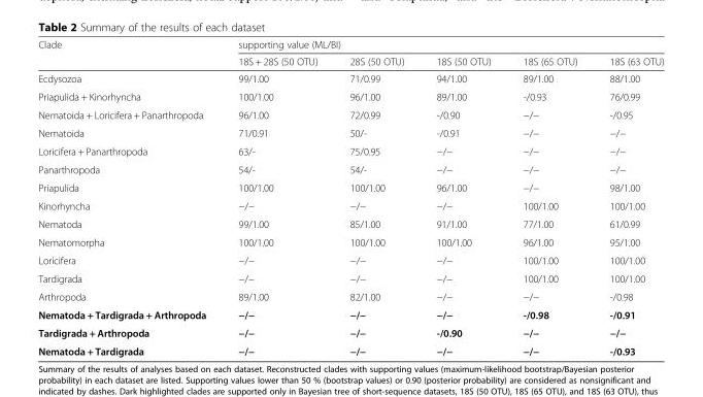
<table><thead><tr><td rowspan="2">Clade</td><td colspan="5">supporting value (ML/BI)</td></tr><tr><td>18S + 28S (50 OTU)</td><td>28S (50 OTU)</td><td>18S (50 OTU)</td><td>18S (65 OTU)</td><td>18S (63 OTU)</td></tr></thead><tbody><tr><td>Ecdysozoa</td><td>99/1.00</td><td>71/0.99</td><td>94/1.00</td><td>89/1.00</td><td>88/1.00</td></tr><tr><td>Priapulida + Kinorhyncha</td><td>100/1.00</td><td>96/1.00</td><td>89/1.00</td><td>-/0.93</td><td>76/0.99</td></tr><tr><td>Nematoida + Loricifera + Panarthropoda</td><td>96/1.00</td><td>72/0.99</td><td>-/0.90</td><td>−/−</td><td>-/0.95</td></tr><tr><td>Nematoida</td><td>71/0.91</td><td>50/-</td><td>-/0.91</td><td>−/−</td><td>−/−</td></tr><tr><td>Loricifera + Panarthropoda</td><td>63/-</td><td>75/0.95</td><td>−/−</td><td>−/−</td><td>−/−</td></tr><tr><td>Panarthropoda</td><td>54/-</td><td>54/-</td><td>−/−</td><td>−/−</td><td>−/−</td></tr><tr><td>Priapulida</td><td>100/1.00</td><td>100/1.00</td><td>96/1.00</td><td>−/−</td><td>98/1.00</td></tr><tr><td>Kinorhyncha</td><td>−/−</td><td>−/−</td><td>−/−</td><td>100/1.00</td><td>100/1.00</td></tr><tr><td>Nematoda</td><td>99/1.00</td><td>85/1.00</td><td>91/1.00</td><td>77/1.00</td><td>61/0.99</td></tr><tr><td>Nematomorpha</td><td>100/1.00</td><td>100/1.00</td><td>100/1.00</td><td>96/1.00</td><td>95/1.00</td></tr><tr><td>Loricifera</td><td>−/−</td><td>−/−</td><td>−/−</td><td>100/1.00</td><td>100/1.00</td></tr><tr><td>Tardigrada</td><td>−/−</td><td>−/−</td><td>−/−</td><td>100/1.00</td><td>100/1.00</td></tr><tr><td>Arthropoda</td><td>89/1.00</td><td>82/1.00</td><td>−/−</td><td>−/−</td><td>-/0.98</td></tr><tr><td>Nematoda + Tardigrada + Arthropoda</td><td>−/−</td><td>−/−</td><td>−/−</td><td>-/0.98</td><td>-/0.91</td></tr><tr><td>Tardigrada + Arthropoda</td><td>−/−</td><td>−/−</td><td>-/0.90</td><td>−/−</td><td>−/−</td></tr><tr><td>Nematoda + Tardigrada</td><td>−/−</td><td>−/−</td><td>−/−</td><td>−/−</td><td>-/0.93</td></tr></tbody></table>